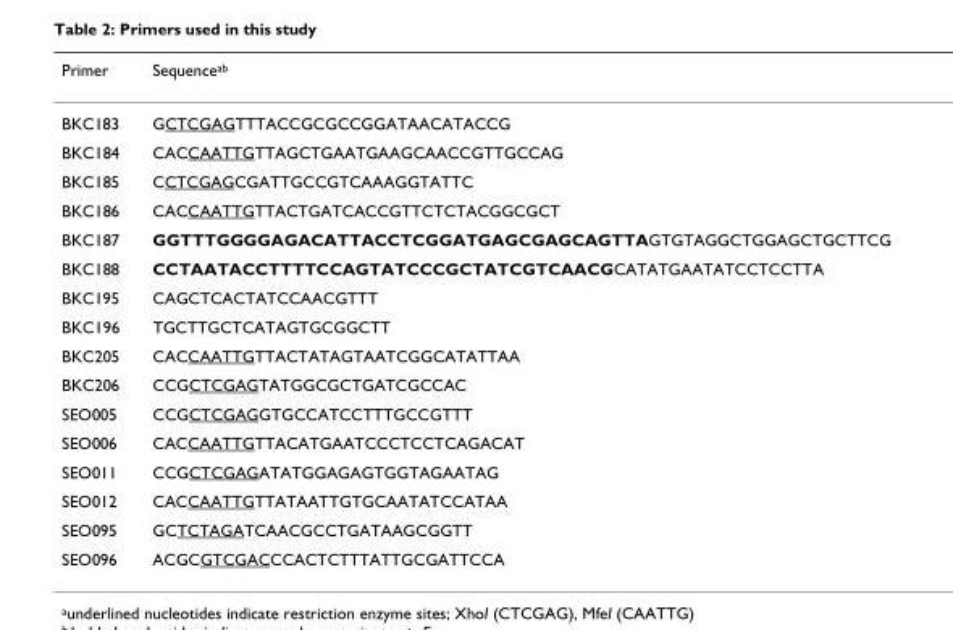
<table><thead><tr><td>Primer</td><td>Sequence<sup>ab</sup></td></tr></thead><tbody><tr><td>BKC183</td><td>GCTCGAGTTTACCGCGCCGGATAACATACCG</td></tr><tr><td>BKC184</td><td>CACCAATTGTTAGCTGAATGAAGCAACCGTTGCCAG</td></tr><tr><td>BKC185</td><td>CCTCGAGCGATTGCCGTCAAAGGTATTC</td></tr><tr><td>BKC186</td><td>CACCAATTGTTACTGATCACCGTTCTCTACGGCGCT</td></tr><tr><td>BKC187</td><td>GGTTTGGGGAGACATTACCTCGGATGAGCGAGCAGTTAGTGTAGGCTGGAGCTGCTTCG</td></tr><tr><td>BKC188</td><td>CCTAATACCTTTTCCAGTATCCCGCTATCGTCAACGCATATGAATATCCTCCTTA</td></tr><tr><td>BKC195</td><td>CAGCTCACTATCCAACGTTT</td></tr><tr><td>BKC196</td><td>TGCTTGCTCATAGTGCGGCTT</td></tr><tr><td>BKC205</td><td>CACCAATTGTTACTATAGTAATCGGCATATTAA</td></tr><tr><td>BKC206</td><td>CCGCTCGAGTATGGCGCTGATCGCCAC</td></tr><tr><td>SEO005</td><td>CCGCTCGAGGTGCCATCCTTTGCCGTTT</td></tr><tr><td>SEO006</td><td>CACCAATTGTTACATGAATCCCTCCTCAGACAT</td></tr><tr><td>SEO011</td><td>CCGCTCGAGATATGGAGAGTGGTAGAATAG</td></tr><tr><td>SEO012</td><td>CACCAATTGTTATAATTGTGCAATATCCATAA</td></tr><tr><td>SEO095</td><td>GCTCTAGATCAACGCCTGATAAGCGGTT</td></tr><tr><td>SEO096</td><td>ACGCGTCGACCCACTCTTTATTGCGATTCCA</td></tr></tbody></table>